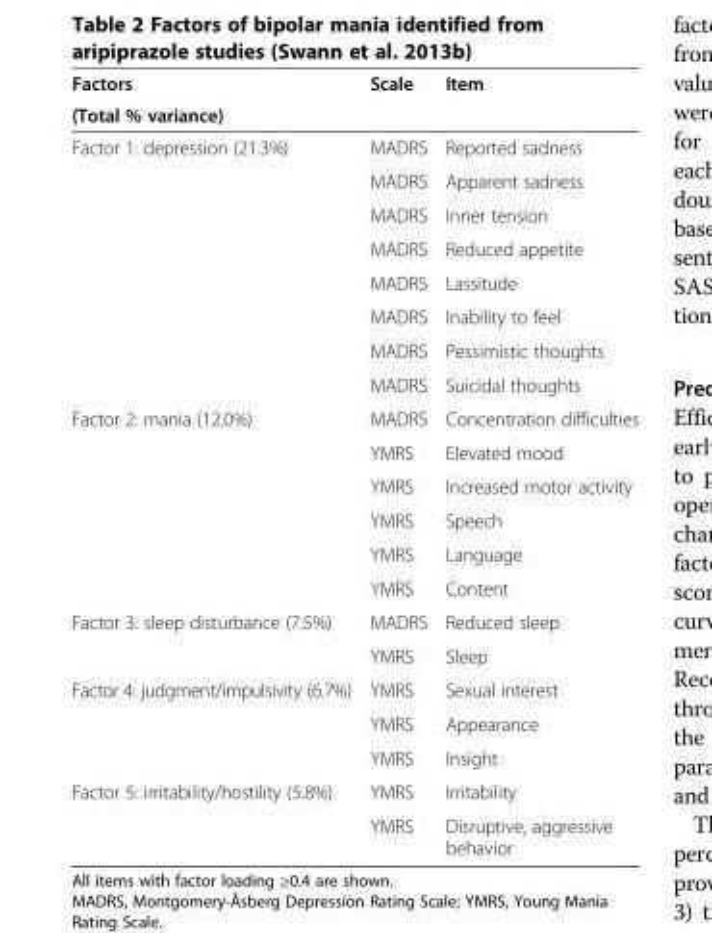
<table><thead><tr><td rowspan="2">Factors (Total % variance)</td><td rowspan="2">Scale</td><td rowspan="2">Item</td></tr><tr></tr></thead><tbody><tr><td rowspan="8">Factor 1: depression (21.3%)</td><td>MADRS</td><td>Reported sadness</td></tr><tr><td>MADRS</td><td>Apparent sadness</td></tr><tr><td>MADRS</td><td>Inner tension</td></tr><tr><td>MADRS</td><td>Reduced appetite</td></tr><tr><td>MADRS</td><td>Lassitude</td></tr><tr><td>MADRS</td><td>Inability to feel</td></tr><tr><td>MADRS</td><td>Pessimistic thoughts</td></tr><tr><td>MADRS</td><td>Suicidal thoughts</td></tr><tr><td rowspan="6">Factor 2: mania (12.0%)</td><td>MADRS</td><td>Concentration difficulties</td></tr><tr><td>YMRS</td><td>Elevated mood</td></tr><tr><td>YMRS</td><td>Increased motor activity</td></tr><tr><td>YMRS</td><td>Speech</td></tr><tr><td>YMRS</td><td>Language</td></tr><tr><td>YMRS</td><td>Content</td></tr><tr><td rowspan="2">Factor 3: sleep disturbance (7.5%)</td><td>MADRS</td><td>Reduced sleep</td></tr><tr><td>YMRS</td><td>Sleep</td></tr><tr><td rowspan="3">Factor 4: judgment/impulsivity (6.7%)</td><td>YMRS</td><td>Sexual interest</td></tr><tr><td>YMRS</td><td>Appearance</td></tr><tr><td>YMRS</td><td>Insight</td></tr><tr><td rowspan="2">Factor 5: irritability/hostility (5.8%)</td><td>YMRS</td><td>Irritability</td></tr><tr><td>YMRS</td><td>Disruptive, aggressive behavior</td></tr></tbody></table>